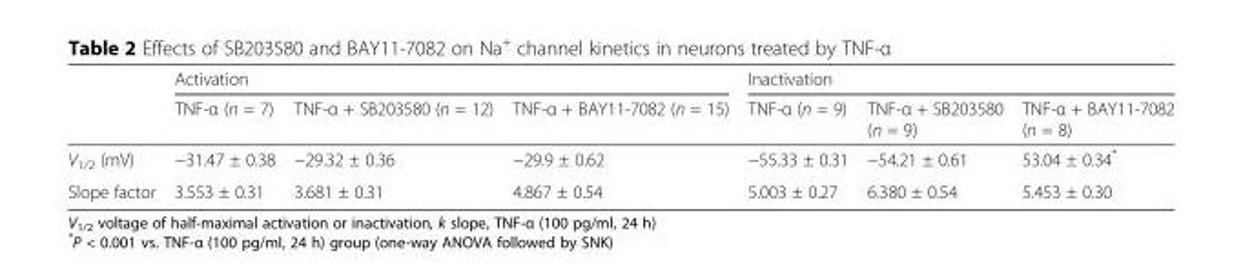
<table><thead><tr><td rowspan="2"></td><td colspan="3">Activation</td><td colspan="3">Inactivation</td></tr><tr><td>TNF-α (n = 7)</td><td>TNF-α + SB203580 (n = 12)</td><td>TNF-α + BAY11-7082 (n = 15)</td><td>TNF-α (n = 9)</td><td>TNF-α + SB203580 (n = 9)</td><td>TNF-α + BAY11-7082 (n = 8)</td></tr></thead><tbody><tr><td>V<sub>1/2</sub> (mV)</td><td>−31.47 ± 0.38</td><td>−29.32 ± 0.36</td><td>−29.9 ± 0.62</td><td>−55.33 ± 0.31</td><td>−54.21 ± 0.61</td><td>53.04 ± 0.34*</td></tr><tr><td>Slope factor</td><td>3.553 ± 0.31</td><td>3.681 ± 0.31</td><td>4.867 ± 0.54</td><td>5.003 ± 0.27</td><td>6.380 ± 0.54</td><td>5.453 ± 0.30</td></tr></tbody></table>